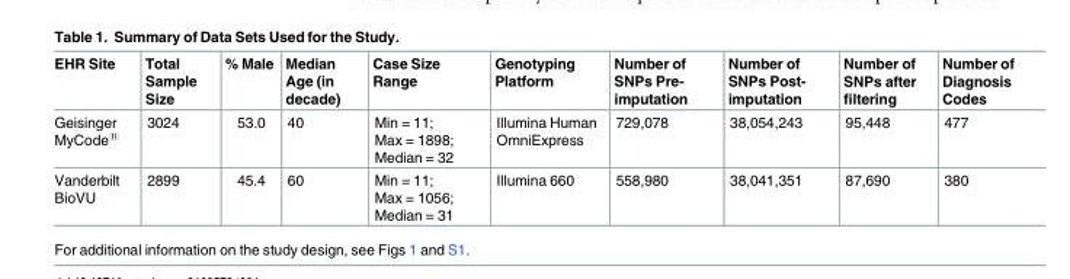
<table><thead><tr><td>EHR Site</td><td>Total Sample Size</td><td>% Male</td><td>Median Age (in decade)</td><td>Case Size Range</td><td>Genotyping Platform</td><td>Number of SNPs Pre- imputation</td><td>Number of SNPs Post- imputation</td><td>Number of SNPs after filtering</td><td>Number of Diagnosis Codes</td></tr></thead><tbody><tr><td>Geisinger MyCode<sup>®</sup></td><td>3024</td><td>53.0</td><td>40</td><td>Min = 11; Max = 1898; Median = 32</td><td>Illumina Human OmniExpress</td><td>729,078</td><td>38,054,243</td><td>95,448</td><td>477</td></tr><tr><td>Vanderbilt BioVU</td><td>2899</td><td>45.4</td><td>60</td><td>Min = 11; Max = 1056; Median = 31</td><td>Illumina 660</td><td>558,980</td><td>38,041,351</td><td>87,690</td><td>380</td></tr></tbody></table>